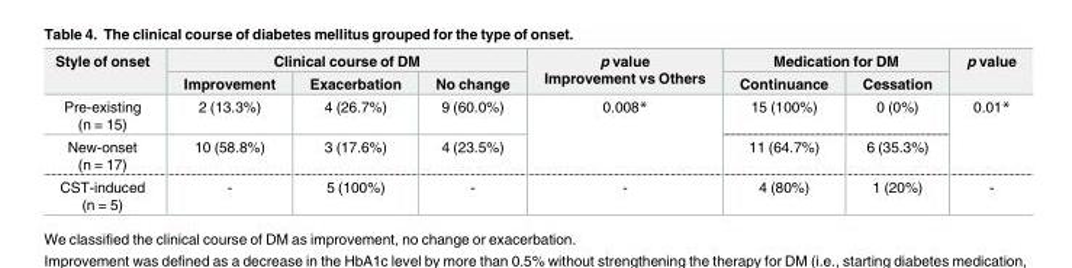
<table><thead><tr><td rowspan="2">Style of onset</td><td colspan="3">Clinical course of DM</td><td rowspan="2">p value Improvement vs Others</td><td colspan="2">Medication for DM</td><td rowspan="2">p value</td></tr><tr><td>Improvement</td><td>Exacerbation</td><td>No change</td><td>Continuance</td><td>Cessation</td></tr></thead><tbody><tr><td>Pre-existing (n = 15)</td><td>2 (13.3%)</td><td>4 (26.7%)</td><td>9 (60.0%)</td><td rowspan="2">0.008*</td><td>15 (100%)</td><td>0 (0%)</td><td rowspan="2">0.01*</td></tr><tr><td>New-onset (n = 17)</td><td>10 (58.8%)</td><td>3 (17.6%)</td><td>4 (23.5%)</td><td>11 (64.7%)</td><td>6 (35.3%)</td></tr><tr><td>CST-induced (n = 5)</td><td>-</td><td>5 (100%)</td><td>-</td><td>-</td><td>4 (80%)</td><td>1 (20%)</td><td>-</td></tr></tbody></table>